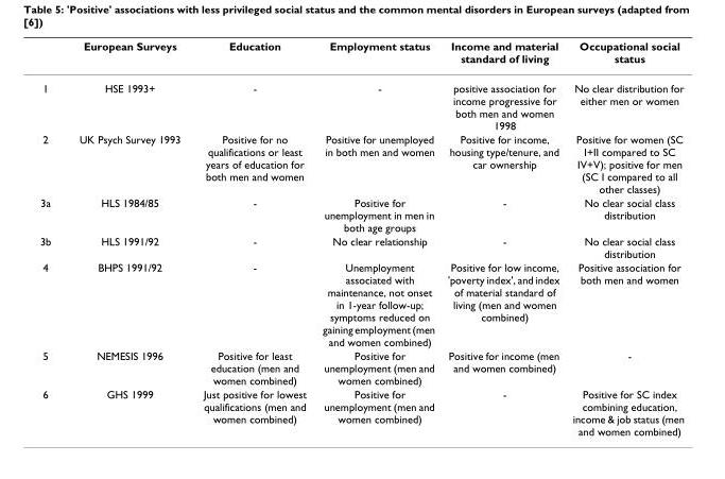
<table><thead><tr><td></td><td>European Surveys</td><td>Education</td><td>Employment status</td><td>Income and material standard of living</td><td>Occupational social status</td></tr></thead><tbody><tr><td>1</td><td>HSE 1993+</td><td>-</td><td>-</td><td>positive association for income progressive for both men and women 1998</td><td>No clear distribution for either men or women</td></tr><tr><td>2</td><td>UK Psych Survey 1993</td><td>Positive for no qualifications or least years of education for both men and women</td><td>Positive for unemployed in both men and women</td><td>Positive for income, housing type/tenure, and car ownership</td><td>Positive for women (SC I+II compared to SC IV+V); positive for men (SC I compared to all other classes)</td></tr><tr><td>3a</td><td>HLS 1984/85</td><td>-</td><td>Positive for unemployment in men in both age groups</td><td>-</td><td>No clear social class distribution</td></tr><tr><td>3b</td><td>HLS 1991/92</td><td>-</td><td>No clear relationship</td><td>-</td><td>No clear social class distribution</td></tr><tr><td>4</td><td>BHPS 1991/92</td><td>-</td><td>Unemployment associated with maintenance, not onset in 1-year follow-up; symptoms reduced on gaining employment (men and women combined)</td><td>Positive for low income, &#x27;poverty index&#x27;, and index of material standard of living (men and women combined)</td><td>Positive association for both men and women</td></tr><tr><td>5</td><td>NEMESIS 1996</td><td>Positive for least education (men and women combined)</td><td>Positive for unemployment (men and women combined)</td><td>Positive for income (men and women combined)</td><td>-</td></tr><tr><td>6</td><td>GHS 1999</td><td>Just positive for lowest qualifications (men and women combined)</td><td>Positive for unemployment (men and women combined)</td><td>-</td><td>Positive for SC index combining education, income &amp; job status (men and women combined)</td></tr></tbody></table>